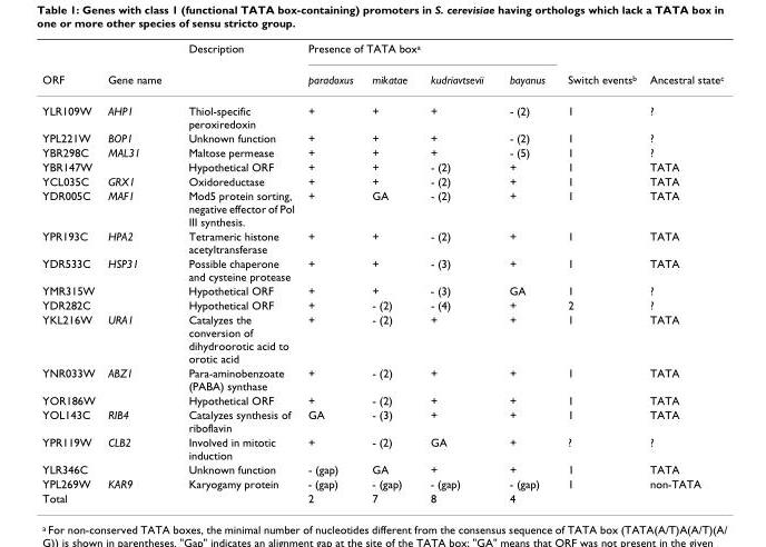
<table><thead><tr><td rowspan="2">ORF</td><td rowspan="2">Gene name</td><td rowspan="2">Description</td><td colspan="4">Presence of TATA box<sup>a</sup></td><td rowspan="2">Switch events<sup>b</sup></td><td rowspan="2">Ancestral state<sup>c</sup></td></tr><tr><td>paradoxus</td><td>mikatae</td><td>kudriavtsevii</td><td>bayanus</td></tr></thead><tbody><tr><td>YLR109W</td><td>AHP1</td><td>Thiol-specific peroxiredoxin</td><td>+</td><td>+</td><td>+</td><td>- (2)</td><td>1</td><td>?</td></tr><tr><td>YPL221W</td><td>BOP1</td><td>Unknown function</td><td>+</td><td>+</td><td>+</td><td>- (2)</td><td>1</td><td>?</td></tr><tr><td>YBR298C</td><td>MAL31</td><td>Maltose permease</td><td>+</td><td>+</td><td>+</td><td>- (5)</td><td>1</td><td>?</td></tr><tr><td>YBR147W</td><td></td><td>Hypothetical ORF</td><td>+</td><td>+</td><td>- (2)</td><td>+</td><td>1</td><td>TATA</td></tr><tr><td>YCL035C</td><td>GRX1</td><td>Oxidoreductase</td><td>+</td><td>+</td><td>- (2)</td><td>+</td><td>1</td><td>TATA</td></tr><tr><td>YDR005C</td><td>MAF1</td><td>Mod5 protein sorting, negative effector of Pol III synthesis.</td><td>+</td><td>GA</td><td>- (2)</td><td>+</td><td>1</td><td>TATA</td></tr><tr><td>YPR193C</td><td>HPA2</td><td>Tetrameric histone acetyltransferase</td><td>+</td><td>+</td><td>- (2)</td><td>+</td><td>1</td><td>TATA</td></tr><tr><td>YDR533C</td><td>HSP31</td><td>Possible chaperone and cysteine protease</td><td>+</td><td>+</td><td>- (3)</td><td>+</td><td>1</td><td>TATA</td></tr><tr><td>YMR315W</td><td></td><td>Hypothetical ORF</td><td>+</td><td>+</td><td>- (3)</td><td>GA</td><td>1</td><td>?</td></tr><tr><td>YDR282C</td><td></td><td>Hypothetical ORF</td><td>+</td><td>- (2)</td><td>- (4)</td><td>+</td><td>2</td><td>?</td></tr><tr><td>YKL216W</td><td>URA1</td><td>Catalyzes the conversion of dihydroorotic acid to orotic acid</td><td>+</td><td>- (2)</td><td>+</td><td>+</td><td>1</td><td>TATA</td></tr><tr><td>YNR033W</td><td>ABZ1</td><td>Para-aminobenzoate (PABA) synthase</td><td>+</td><td>- (2)</td><td>+</td><td>+</td><td>1</td><td>TATA</td></tr><tr><td>YOR186W</td><td></td><td>Hypothetical ORF</td><td>+</td><td>- (2)</td><td>+</td><td>+</td><td>1</td><td>TATA</td></tr><tr><td>YOL143C</td><td>RIB4</td><td>Catalyzes synthesis of riboflavin</td><td>GA</td><td>- (3)</td><td>+</td><td>+</td><td>1</td><td>TATA</td></tr><tr><td>YPR119W</td><td>CLB2</td><td>Involved in mitotic induction</td><td>+</td><td>- (2)</td><td>GA</td><td>+</td><td>?</td><td>?</td></tr><tr><td>YLR346C</td><td></td><td>Unknown function</td><td>- (gap)</td><td>GA</td><td>+</td><td>+</td><td>1</td><td>TATA</td></tr><tr><td>YPL269W</td><td>KAR9</td><td>Karyogamy protein</td><td>- (gap)</td><td>- (gap)</td><td>- (gap)</td><td>- (gap)</td><td>1</td><td>non-TATA</td></tr><tr><td>Total</td><td></td><td></td><td>2</td><td>7</td><td>8</td><td>4</td><td></td><td></td></tr></tbody></table>